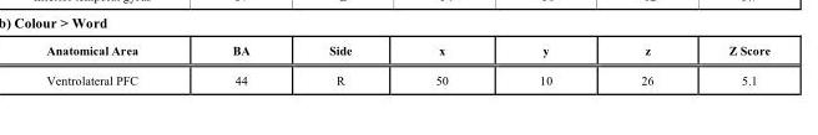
<table><thead><tr><td>Anatomical Area</td><td>BA</td><td>Side</td><td>x</td><td>y</td><td>z</td><td>Z Score</td></tr></thead><tbody><tr><td>Ventrolateral PFC</td><td>44</td><td>R</td><td>50</td><td>10</td><td>26</td><td>5.1</td></tr></tbody></table>